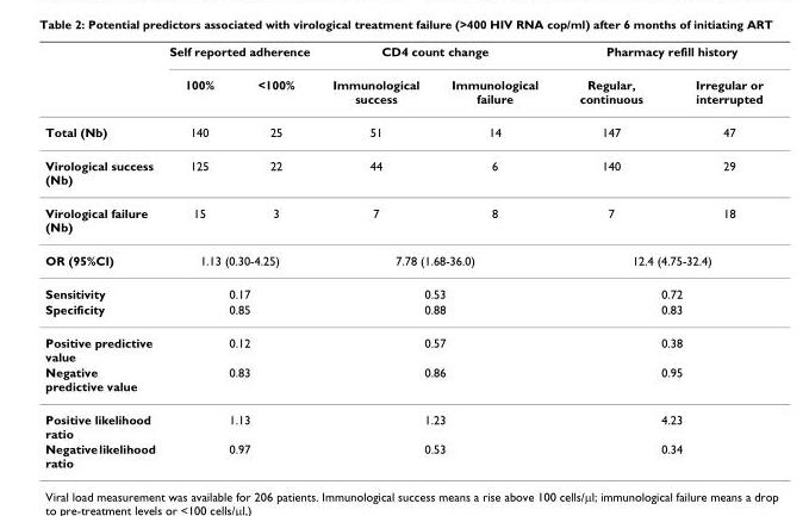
<table><thead><tr><td rowspan="2"></td><td colspan="2">Self reported adherence</td><td colspan="2">CD4 count change</td><td colspan="2">Pharmacy refill history</td></tr><tr><td>100%</td><td>&lt;100%</td><td>Immunological success</td><td>Immunological failure</td><td>Regular, continuous</td><td>Irregular or interrupted</td></tr></thead><tbody><tr><td>Total (Nb)</td><td>140</td><td>25</td><td>51</td><td>14</td><td>147</td><td>47</td></tr><tr><td>Virological success (Nb)</td><td>125</td><td>22</td><td>44</td><td>6</td><td>140</td><td>29</td></tr><tr><td>Virological failure (Nb)</td><td>15</td><td>3</td><td>7</td><td>8</td><td>7</td><td>18</td></tr><tr><td>OR (95%CI)</td><td colspan="2">1.13 (0.30-4.25)</td><td colspan="2">7.78 (1.68-36.0)</td><td colspan="2">12.4 (4.75-32.4)</td></tr><tr><td>Sensitivity</td><td colspan="2">0.17</td><td colspan="2">0.53</td><td colspan="2">0.72</td></tr><tr><td>Specificity</td><td colspan="2">0.85</td><td colspan="2">0.88</td><td colspan="2">0.83</td></tr><tr><td>Positive predictive value</td><td colspan="2">0.12</td><td colspan="2">0.57</td><td colspan="2">0.38</td></tr><tr><td>Negative predictive value</td><td colspan="2">0.83</td><td colspan="2">0.86</td><td colspan="2">0.95</td></tr><tr><td>Positive likelihood ratio</td><td colspan="2">1.13</td><td colspan="2">1.23</td><td colspan="2">4.23</td></tr><tr><td>Negative likelihood ratio</td><td colspan="2">0.97</td><td colspan="2">0.53</td><td colspan="2">0.34</td></tr></tbody></table>